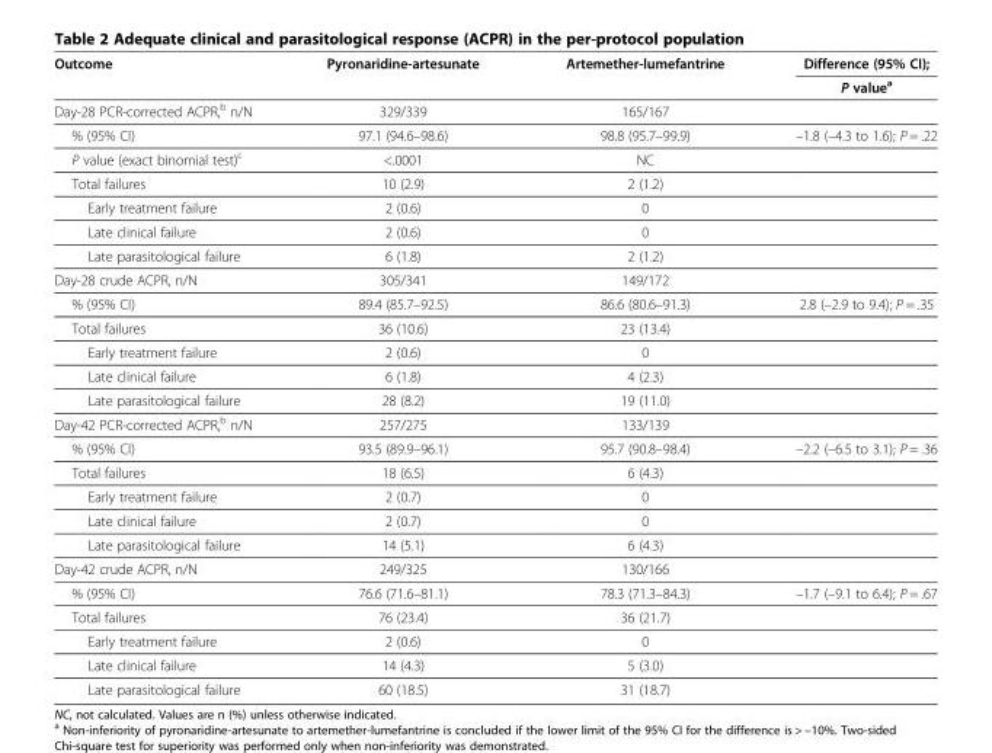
<table><thead><tr><td rowspan="2">Outcome</td><td rowspan="2">Pyronaridine-artesunate</td><td rowspan="2">Artemether-lumefantrine</td><td rowspan="2">Difference (95% CI); P value<sup>a</sup></td></tr><tr></tr></thead><tbody><tr><td>Day-28 PCR-corrected ACPR,<sup>b</sup> n/N</td><td>329/339</td><td>165/167</td><td></td></tr><tr><td>% (95% CI)</td><td>97.1 (94.6–98.6)</td><td>98.8 (95.7–99.9)</td><td>–1.8 (–4.3 to 1.6); P = .22</td></tr><tr><td>P value (exact binomial test)<sup>c</sup></td><td>&lt;.0001</td><td>NC</td><td></td></tr><tr><td>Total failures</td><td>10 (2.9)</td><td>2 (1.2)</td><td></td></tr><tr><td>Early treatment failure</td><td>2 (0.6)</td><td>0</td><td></td></tr><tr><td>Late clinical failure</td><td>2 (0.6)</td><td>0</td><td></td></tr><tr><td>Late parasitological failure</td><td>6 (1.8)</td><td>2 (1.2)</td><td></td></tr><tr><td>Day-28 crude ACPR, n/N</td><td>305/341</td><td>149/172</td><td></td></tr><tr><td>% (95% CI)</td><td>89.4 (85.7–92.5)</td><td>86.6 (80.6–91.3)</td><td>2.8 (–2.9 to 9.4); P = .35</td></tr><tr><td>Total failures</td><td>36 (10.6)</td><td>23 (13.4)</td><td></td></tr><tr><td>Early treatment failure</td><td>2 (0.6)</td><td>0</td><td></td></tr><tr><td>Late clinical failure</td><td>6 (1.8)</td><td>4 (2.3)</td><td></td></tr><tr><td>Late parasitological failure</td><td>28 (8.2)</td><td>19 (11.0)</td><td></td></tr><tr><td>Day-42 PCR-corrected ACPR,<sup>b</sup> n/N</td><td>257/275</td><td>133/139</td><td></td></tr><tr><td>% (95% CI)</td><td>93.5 (89.9–96.1)</td><td>95.7 (90.8–98.4)</td><td>–2.2 (–6.5 to 3.1); P = .36</td></tr><tr><td>Total failures</td><td>18 (6.5)</td><td>6 (4.3)</td><td></td></tr><tr><td>Early treatment failure</td><td>2 (0.7)</td><td>0</td><td></td></tr><tr><td>Late clinical failure</td><td>2 (0.7)</td><td>0</td><td></td></tr><tr><td>Late parasitological failure</td><td>14 (5.1)</td><td>6 (4.3)</td><td></td></tr><tr><td>Day-42 crude ACPR, n/N</td><td>249/325</td><td>130/166</td><td></td></tr><tr><td>% (95% CI)</td><td>76.6 (71.6–81.1)</td><td>78.3 (71.3–84.3)</td><td>–1.7 (–9.1 to 6.4); P = .67</td></tr><tr><td>Total failures</td><td>76 (23.4)</td><td>36 (21.7)</td><td></td></tr><tr><td>Early treatment failure</td><td>2 (0.6)</td><td>0</td><td></td></tr><tr><td>Late clinical failure</td><td>14 (4.3)</td><td>5 (3.0)</td><td></td></tr><tr><td>Late parasitological failure</td><td>60 (18.5)</td><td>31 (18.7)</td><td></td></tr></tbody></table>